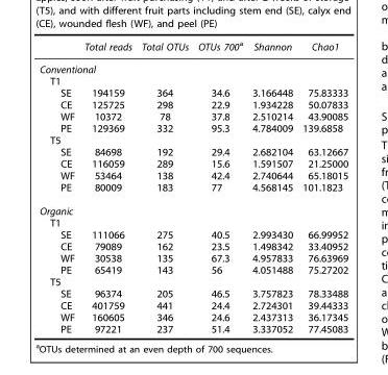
<table><thead><tr><td></td><td>Total reads</td><td>Total OTUs</td><td>OTUs 700<sup>a</sup></td><td>Shannon</td><td>Chao1</td></tr></thead><tbody><tr><td colspan="6">Conventional</td></tr><tr><td colspan="6">T1</td></tr><tr><td>SE</td><td>194159</td><td>364</td><td>34.6</td><td>3.166448</td><td>75.83333</td></tr><tr><td>CE</td><td>125725</td><td>298</td><td>22.9</td><td>1.934228</td><td>50.07833</td></tr><tr><td>WF</td><td>10372</td><td>78</td><td>37.8</td><td>2.510214</td><td>43.90085</td></tr><tr><td>PE</td><td>129369</td><td>332</td><td>95.3</td><td>4.784009</td><td>139.6858</td></tr><tr><td colspan="6">T5</td></tr><tr><td>SE</td><td>84698</td><td>192</td><td>29.4</td><td>2.682104</td><td>63.12667</td></tr><tr><td>CE</td><td>116059</td><td>289</td><td>15.6</td><td>1.591507</td><td>21.25000</td></tr><tr><td>WF</td><td>53464</td><td>138</td><td>42.4</td><td>2.740644</td><td>65.18015</td></tr><tr><td>PE</td><td>80009</td><td>183</td><td>77</td><td>4.568145</td><td>101.1823</td></tr><tr><td colspan="6">Organic</td></tr><tr><td colspan="6">T1</td></tr><tr><td>SE</td><td>111066</td><td>275</td><td>40.5</td><td>2.993430</td><td>66.99952</td></tr><tr><td>CE</td><td>79089</td><td>162</td><td>23.5</td><td>1.498342</td><td>33.40952</td></tr><tr><td>WF</td><td>30538</td><td>135</td><td>67.3</td><td>4.957833</td><td>76.63969</td></tr><tr><td>PE</td><td>65419</td><td>143</td><td>56</td><td>4.051488</td><td>75.27202</td></tr><tr><td colspan="6">T5</td></tr><tr><td>SE</td><td>96374</td><td>205</td><td>46.5</td><td>3.757823</td><td>78.33488</td></tr><tr><td>CE</td><td>401759</td><td>441</td><td>24.4</td><td>2.724301</td><td>39.44333</td></tr><tr><td>WF</td><td>160605</td><td>346</td><td>24.6</td><td>2.437313</td><td>36.17345</td></tr><tr><td>PE</td><td>97221</td><td>237</td><td>51.4</td><td>3.337052</td><td>77.45083</td></tr></tbody></table>